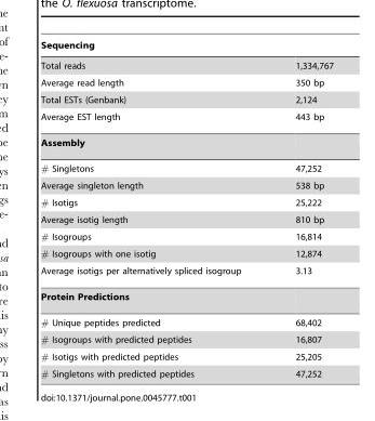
<table><thead><tr><td>Sequencing</td><td></td></tr></thead><tbody><tr><td>Total reads</td><td>1,334,767</td></tr><tr><td>Average read length</td><td>350 bp</td></tr><tr><td>Total ESTs (Genbank)</td><td>2,124</td></tr><tr><td>Average EST length</td><td>443 bp</td></tr><tr><td colspan="2">Assembly</td></tr><tr><td># Singletons</td><td>47,252</td></tr><tr><td>Average singleton length</td><td>538 bp</td></tr><tr><td># Isotigs</td><td>25,222</td></tr><tr><td>Average isotig length</td><td>810 bp</td></tr><tr><td># Isogroups</td><td>16,814</td></tr><tr><td># Isogroups with one isotig</td><td>12,874</td></tr><tr><td>Average isotigs per alternatively spliced isogroup</td><td>3.13</td></tr><tr><td colspan="2">Protein Predictions</td></tr><tr><td># Unique peptides predicted</td><td>68,402</td></tr><tr><td># Isogroups with predicted peptides</td><td>16,807</td></tr><tr><td># Isotigs with predicted peptides</td><td>25,205</td></tr><tr><td># Singletons with predicted peptides</td><td>47,252</td></tr></tbody></table>